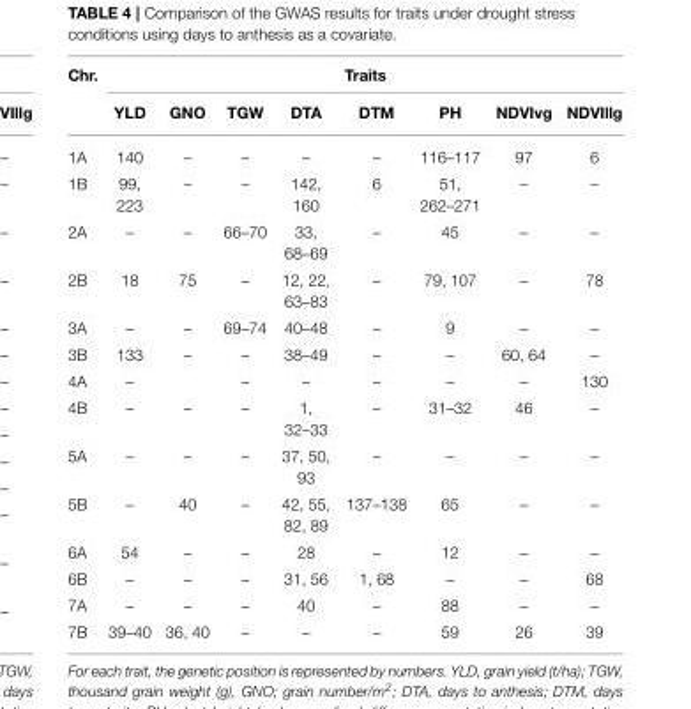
<table><thead><tr><td rowspan="2">Chr.</td><td colspan="8">Traits</td></tr><tr><td>YLD</td><td>GNO</td><td>TGW</td><td>DTA</td><td>DTM</td><td>PH</td><td>NDVIvg</td><td>NDVIllg</td></tr></thead><tbody><tr><td>1A</td><td>140</td><td>–</td><td>–</td><td>–</td><td>–</td><td>116–117</td><td>97</td><td>6</td></tr><tr><td>1B</td><td>99, 223</td><td>–</td><td>–</td><td>142, 160</td><td>6</td><td>51, 262–271</td><td>–</td><td>–</td></tr><tr><td>2A</td><td>–</td><td>–</td><td>66–70</td><td>33, 68–69</td><td>–</td><td>45</td><td>–</td><td>–</td></tr><tr><td>2B</td><td>18</td><td>75</td><td>–</td><td>12, 22, 63–83</td><td>–</td><td>79, 107</td><td>–</td><td>78</td></tr><tr><td>3A</td><td>–</td><td>–</td><td>69–74</td><td>40–48</td><td>–</td><td>9</td><td>–</td><td>–</td></tr><tr><td>3B</td><td>133</td><td>–</td><td>–</td><td>38–49</td><td>–</td><td>–</td><td>60, 64</td><td>–</td></tr><tr><td>4A</td><td>–</td><td></td><td>–</td><td>–</td><td>–</td><td>–</td><td>–</td><td>130</td></tr><tr><td>4B</td><td>–</td><td>–</td><td>–</td><td>1, 32–33</td><td>–</td><td>31–32</td><td>46</td><td>–</td></tr><tr><td>5A</td><td>–</td><td>–</td><td>–</td><td>37, 50, 93</td><td>–</td><td>–</td><td>–</td><td>–</td></tr><tr><td>5B</td><td>–</td><td>40</td><td>–</td><td>42, 55, 82, 89</td><td>137–138</td><td>65</td><td>–</td><td>–</td></tr><tr><td>6A</td><td>54</td><td>–</td><td>–</td><td>28</td><td>–</td><td>12</td><td>–</td><td>–</td></tr><tr><td>6B</td><td>–</td><td>–</td><td>–</td><td>31, 56</td><td>1, 68</td><td>–</td><td>–</td><td>68</td></tr><tr><td>7A</td><td>–</td><td>–</td><td>–</td><td>40</td><td>–</td><td>88</td><td>–</td><td>–</td></tr><tr><td>7B</td><td>39–40</td><td>36, 40</td><td>–</td><td>–</td><td>–</td><td>59</td><td>26</td><td>39</td></tr></tbody></table>